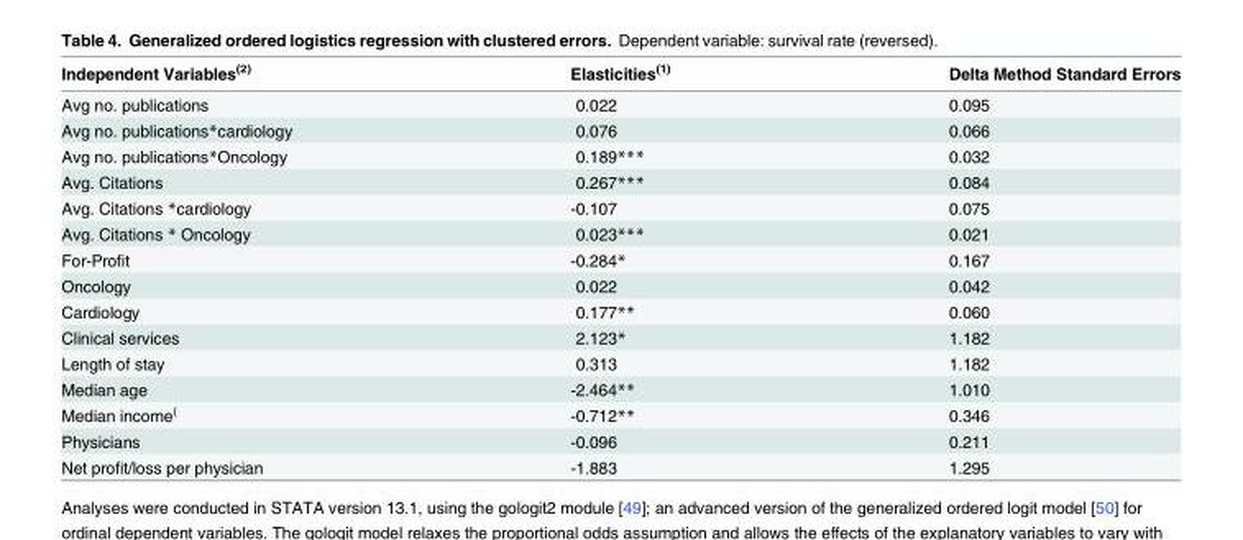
<table><thead><tr><td>Independent Variables<sup>(2)</sup></td><td>Elasticities<sup>(1)</sup></td><td>Delta Method Standard Errors</td></tr></thead><tbody><tr><td>Avg no. publications</td><td>0.022</td><td>0.095</td></tr><tr><td>Avg no. publications*cardiology</td><td>0.076</td><td>0.066</td></tr><tr><td>Avg no. publications*Oncology</td><td>0.189***</td><td>0.032</td></tr><tr><td>Avg. Citations</td><td>0.267***</td><td>0.084</td></tr><tr><td>Avg. Citations *cardiology</td><td>-0.107</td><td>0.075</td></tr><tr><td>Avg. Citations * Oncology</td><td>0.023***</td><td>0.021</td></tr><tr><td>For-Profit</td><td>-0.284*</td><td>0.167</td></tr><tr><td>Oncology</td><td>0.022</td><td>0.042</td></tr><tr><td>Cardiology</td><td>0.177**</td><td>0.060</td></tr><tr><td>Clinical services</td><td>2.123*</td><td>1.182</td></tr><tr><td>Length of stay</td><td>0.313</td><td>1.182</td></tr><tr><td>Median age</td><td>-2.464**</td><td>1.010</td></tr><tr><td>Median income<sup>(</sup></td><td>-0.712**</td><td>0.346</td></tr><tr><td>Physicians</td><td>-0.096</td><td>0.211</td></tr><tr><td>Net profit/loss per physician</td><td>-1.883</td><td>1.295</td></tr></tbody></table>